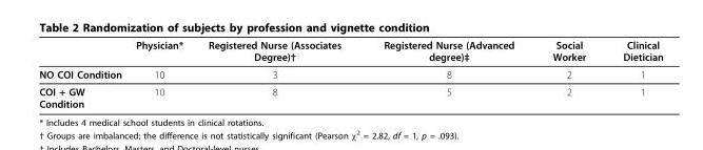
<table><thead><tr><td></td><td>Physician*</td><td>Registered Nurse (Associates Degree)†</td><td>Registered Nurse (Advanced degree)‡</td><td>Social Worker</td><td>Clinical Dietician</td></tr></thead><tbody><tr><td>NO COI Condition</td><td>10</td><td>3</td><td>8</td><td>2</td><td>1</td></tr><tr><td>COI + GW Condition</td><td>10</td><td>8</td><td>5</td><td>2</td><td>1</td></tr></tbody></table>